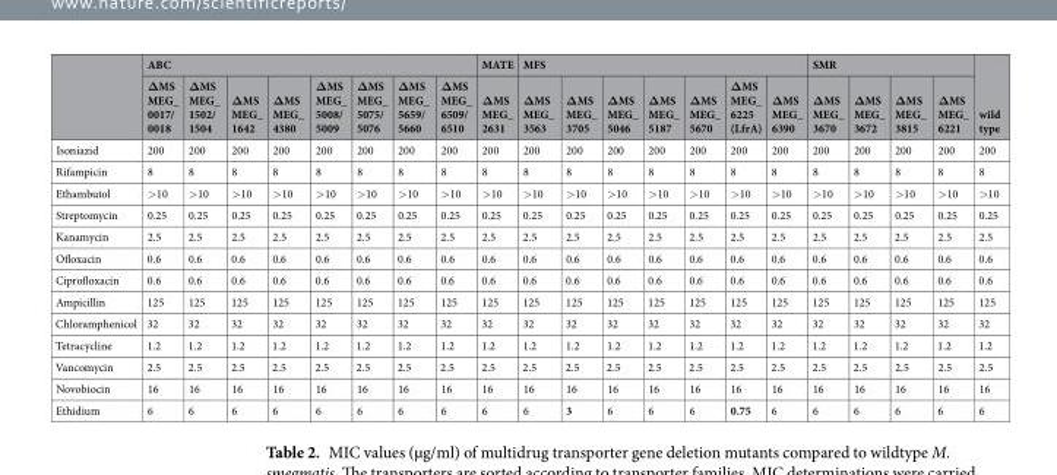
<table><thead><tr><td rowspan="2"></td><td colspan="8">ABC</td><td rowspan="2">MATE ΔMS MEG_ 2631</td><td colspan="7">MFS</td><td colspan="4">SMR</td><td rowspan="2">wild type</td></tr><tr><td>ΔMS MEG_ 0017/ 0018</td><td>ΔMS MEG_ 1502/ 1504</td><td>ΔMS MEG_ 1642</td><td>ΔMS MEG_ 4380</td><td>ΔMS MEG_ 5008/ 5009</td><td>ΔMS MEG_ 5075/ 5076</td><td>ΔMS MEG_ 5659/ 5660</td><td>ΔMS MEG_ 6509/ 6510</td><td>ΔMS MEG_ 3563</td><td>ΔMS MEG_ 3705</td><td>ΔMS MEG_ 5046</td><td>ΔMS MEG_ 5187</td><td>ΔMS MEG_ 5670</td><td>ΔMS MEG_ 6225 (LfrA)</td><td>ΔMS MEG_ 6390</td><td>ΔMS MEG_ 3670</td><td>ΔMS MEG_ 3672</td><td>ΔMS MEG_ 3815</td><td>ΔMS MEG_ 6221</td></tr></thead><tbody><tr><td>Isoniazid</td><td>200</td><td>200</td><td>200</td><td>200</td><td>200</td><td>200</td><td>200</td><td>200</td><td>200</td><td>200</td><td>200</td><td>200</td><td>200</td><td>200</td><td>200</td><td>200</td><td>200</td><td>200</td><td>200</td><td>200</td><td>200</td></tr><tr><td>Rifampicin</td><td>8</td><td>8</td><td>8</td><td>8</td><td>8</td><td>8</td><td>8</td><td>8</td><td>8</td><td>8</td><td>8</td><td>8</td><td>8</td><td>8</td><td>8</td><td>8</td><td>8</td><td>8</td><td>8</td><td>8</td><td>8</td></tr><tr><td>Ethambutol</td><td>&gt;10</td><td>&gt;10</td><td>&gt;10</td><td>&gt;10</td><td>&gt;10</td><td>&gt;10</td><td>&gt;10</td><td>&gt;10</td><td>&gt;10</td><td>&gt;10</td><td>&gt;10</td><td>&gt;10</td><td>&gt;10</td><td>&gt;10</td><td>&gt;10</td><td>&gt;10</td><td>&gt;10</td><td>&gt;10</td><td>&gt;10</td><td>&gt;10</td><td>&gt;10</td></tr><tr><td>Streptomycin</td><td>0.25</td><td>0.25</td><td>0.25</td><td>0.25</td><td>0.25</td><td>0.25</td><td>0.25</td><td>0.25</td><td>0.25</td><td>0.25</td><td>0.25</td><td>0.25</td><td>0.25</td><td>0.25</td><td>0.25</td><td>0.25</td><td>0.25</td><td>0.25</td><td>0.25</td><td>0.25</td><td>0.25</td></tr><tr><td>Kanamycin</td><td>2.5</td><td>2.5</td><td>2.5</td><td>2.5</td><td>2.5</td><td>2.5</td><td>2.5</td><td>2.5</td><td>2.5</td><td>2.5</td><td>2.5</td><td>2.5</td><td>2.5</td><td>2.5</td><td>2.5</td><td>2.5</td><td>2.5</td><td>2.5</td><td>2.5</td><td>2.5</td><td>2.5</td></tr><tr><td>Ofloxacin</td><td>0.6</td><td>0.6</td><td>0.6</td><td>0.6</td><td>0.6</td><td>0.6</td><td>0.6</td><td>0.6</td><td>0.6</td><td>0.6</td><td>0.6</td><td>0.6</td><td>0.6</td><td>0.6</td><td>0.6</td><td>0.6</td><td>0.6</td><td>0.6</td><td>0.6</td><td>0.6</td><td>0.6</td></tr><tr><td>Ciprofloxacin</td><td>0.6</td><td>0.6</td><td>0.6</td><td>0.6</td><td>0.6</td><td>0.6</td><td>0.6</td><td>0.6</td><td>0.6</td><td>0.6</td><td>0.6</td><td>0.6</td><td>0.6</td><td>0.6</td><td>0.6</td><td>0.6</td><td>0.6</td><td>0.6</td><td>0.6</td><td>0.6</td><td>0.6</td></tr><tr><td>Ampicillin</td><td>125</td><td>125</td><td>125</td><td>125</td><td>125</td><td>125</td><td>125</td><td>125</td><td>125</td><td>125</td><td>125</td><td>125</td><td>125</td><td>125</td><td>125</td><td>125</td><td>125</td><td>125</td><td>125</td><td>125</td><td>125</td></tr><tr><td>Chloramphenicol</td><td>32</td><td>32</td><td>32</td><td>32</td><td>32</td><td>32</td><td>32</td><td>32</td><td>32</td><td>32</td><td>32</td><td>32</td><td>32</td><td>32</td><td>32</td><td>32</td><td>32</td><td>32</td><td>32</td><td>32</td><td>32</td></tr><tr><td>Tetracycline</td><td>1.2</td><td>1.2</td><td>1.2</td><td>1.2</td><td>1.2</td><td>1.2</td><td>1.2</td><td>1.2</td><td>1.2</td><td>1.2</td><td>1.2</td><td>1.2</td><td>1.2</td><td>1.2</td><td>1.2</td><td>1.2</td><td>1.2</td><td>1.2</td><td>1.2</td><td>1.2</td><td>1.2</td></tr><tr><td>Vancomycin</td><td>2.5</td><td>2.5</td><td>2.5</td><td>2.5</td><td>2.5</td><td>2.5</td><td>2.5</td><td>2.5</td><td>2.5</td><td>2.5</td><td>2.5</td><td>2.5</td><td>2.5</td><td>2.5</td><td>2.5</td><td>2.5</td><td>2.5</td><td>2.5</td><td>2.5</td><td>2.5</td><td>2.5</td></tr><tr><td>Novobiocin</td><td>16</td><td>16</td><td>16</td><td>16</td><td>16</td><td>16</td><td>16</td><td>16</td><td>16</td><td>16</td><td>16</td><td>16</td><td>16</td><td>16</td><td>16</td><td>16</td><td>16</td><td>16</td><td>16</td><td>16</td><td>16</td></tr><tr><td>Ethidium</td><td>6</td><td>6</td><td>6</td><td>6</td><td>6</td><td>6</td><td>6</td><td>6</td><td>6</td><td>6</td><td>3</td><td>6</td><td>6</td><td>6</td><td>0.75</td><td>6</td><td>6</td><td>6</td><td>6</td><td>6</td><td>6</td></tr></tbody></table>